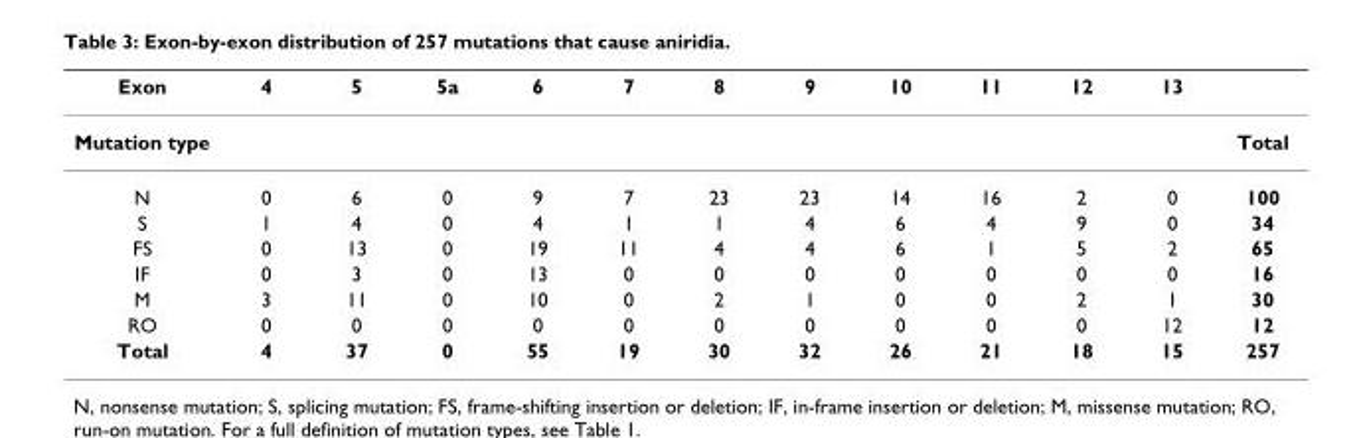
<table><thead><tr><td>Exon</td><td>4</td><td>5</td><td>5a</td><td>6</td><td>7</td><td>8</td><td>9</td><td>10</td><td>11</td><td>12</td><td>13</td><td></td></tr></thead><tbody><tr><td>Mutation type</td><td></td><td></td><td></td><td></td><td></td><td></td><td></td><td></td><td></td><td></td><td></td><td>Total</td></tr><tr><td>N</td><td>0</td><td>6</td><td>0</td><td>9</td><td>7</td><td>23</td><td>23</td><td>14</td><td>16</td><td>2</td><td>0</td><td>100</td></tr><tr><td>S</td><td>1</td><td>4</td><td>0</td><td>4</td><td>1</td><td>1</td><td>4</td><td>6</td><td>4</td><td>9</td><td>0</td><td>34</td></tr><tr><td>FS</td><td>0</td><td>13</td><td>0</td><td>19</td><td>11</td><td>4</td><td>4</td><td>6</td><td>1</td><td>5</td><td>2</td><td>65</td></tr><tr><td>IF</td><td>0</td><td>3</td><td>0</td><td>13</td><td>0</td><td>0</td><td>0</td><td>0</td><td>0</td><td>0</td><td>0</td><td>16</td></tr><tr><td>M</td><td>3</td><td>11</td><td>0</td><td>10</td><td>0</td><td>2</td><td>1</td><td>0</td><td>0</td><td>2</td><td>1</td><td>30</td></tr><tr><td>RO</td><td>0</td><td>0</td><td>0</td><td>0</td><td>0</td><td>0</td><td>0</td><td>0</td><td>0</td><td>0</td><td>12</td><td>12</td></tr><tr><td>Total</td><td>4</td><td>37</td><td>0</td><td>55</td><td>19</td><td>30</td><td>32</td><td>26</td><td>21</td><td>18</td><td>15</td><td>257</td></tr></tbody></table>